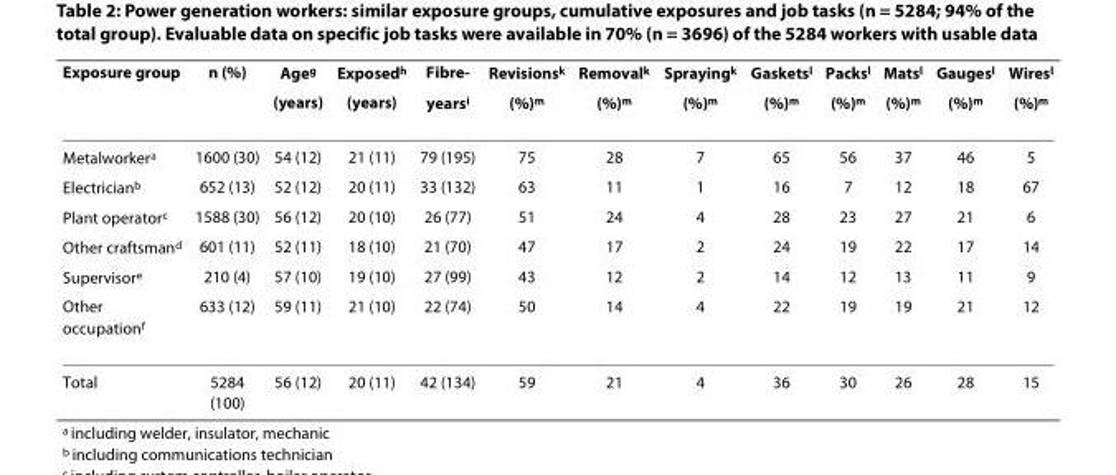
<table><thead><tr><td rowspan="2">Exposure group</td><td rowspan="2">n (%)</td><td rowspan="2">Age<sup>g</sup> (years)</td><td rowspan="2">Exposed<sup>h</sup> (years)</td><td rowspan="2">Fibre- years<sup>i</sup></td><td rowspan="2">Revisions<sup>k</sup> (%)<sup>m</sup></td><td rowspan="2">Removal<sup>k</sup> (%)<sup>m</sup></td><td rowspan="2">Spraying<sup>k</sup> (%)<sup>m</sup></td><td rowspan="2">Gaskets<sup>l</sup> (%)<sup>m</sup></td><td rowspan="2">Packs<sup>l</sup> (%)<sup>m</sup></td><td rowspan="2">Mats<sup>l</sup> (%)<sup>m</sup></td><td rowspan="2">Gauges<sup>l</sup> (%)<sup>m</sup></td><td rowspan="2">Wires<sup>l</sup> (%)<sup>m</sup></td></tr><tr></tr></thead><tbody><tr><td>Metalworker<sup>a</sup></td><td>1600 (30)</td><td>54 (12)</td><td>21 (11)</td><td>79 (195)</td><td>75</td><td>28</td><td>7</td><td>65</td><td>56</td><td>37</td><td>46</td><td>5</td></tr><tr><td>Electrician<sup>b</sup></td><td>652 (13)</td><td>52 (12)</td><td>20 (11)</td><td>33 (132)</td><td>63</td><td>11</td><td>1</td><td>16</td><td>7</td><td>12</td><td>18</td><td>67</td></tr><tr><td>Plant operator<sup>c</sup></td><td>1588 (30)</td><td>56 (12)</td><td>20 (10)</td><td>26 (77)</td><td>51</td><td>24</td><td>4</td><td>28</td><td>23</td><td>27</td><td>21</td><td>6</td></tr><tr><td>Other craftsman<sup>d</sup></td><td>601 (11)</td><td>52 (11)</td><td>18 (10)</td><td>21 (70)</td><td>47</td><td>17</td><td>2</td><td>24</td><td>19</td><td>22</td><td>17</td><td>14</td></tr><tr><td>Supervisor<sup>e</sup></td><td>210 (4)</td><td>57 (10)</td><td>19 (10)</td><td>27 (99)</td><td>43</td><td>12</td><td>2</td><td>14</td><td>12</td><td>13</td><td>11</td><td>9</td></tr><tr><td>Other occupation<sup>f</sup></td><td>633 (12)</td><td>59 (11)</td><td>21 (10)</td><td>22 (74)</td><td>50</td><td>14</td><td>4</td><td>22</td><td>19</td><td>19</td><td>21</td><td>12</td></tr><tr><td>Total</td><td>5284 (100)</td><td>56 (12)</td><td>20 (11)</td><td>42 (134)</td><td>59</td><td>21</td><td>4</td><td>36</td><td>30</td><td>26</td><td>28</td><td>15</td></tr></tbody></table>